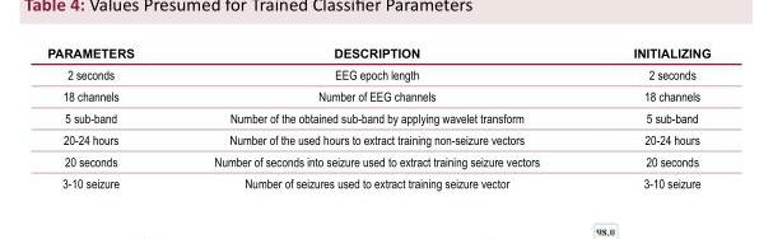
<table><thead><tr><td>PARAMETERS</td><td>DESCRIPTION</td><td>INITIALIZING</td></tr></thead><tbody><tr><td>2 seconds</td><td>EEG epoch length</td><td>2 seconds</td></tr><tr><td>18 channels</td><td>Number of EEG channels</td><td>18 channels</td></tr><tr><td>5 sub-band</td><td>Number of the obtained sub-band by applying wavelet transform</td><td>5 sub-band</td></tr><tr><td>20-24 hours</td><td>Number of the used hours to extract training non-seizure vectors</td><td>20-24 hours</td></tr><tr><td>20 seconds</td><td>Number of seconds into seizure used to extract training seizure vectors</td><td>20 seconds</td></tr><tr><td>3-10 seizure</td><td>Number of seizures used to extract training seizure vector</td><td>3-10 seizure</td></tr></tbody></table>